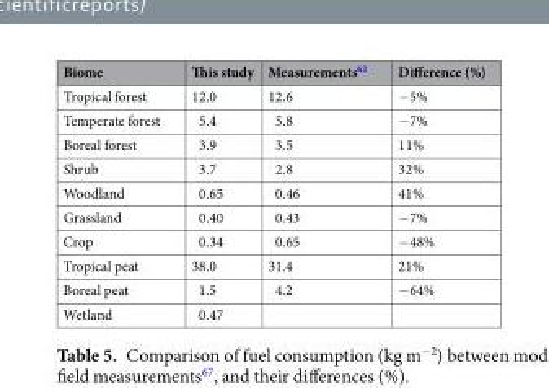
<table><thead><tr><td>Biome</td><td>This study</td><td>Measurements<sup>62</sup></td><td>Difference (%)</td></tr></thead><tbody><tr><td>Tropical forest</td><td>12.0</td><td>12.6</td><td>−5%</td></tr><tr><td>Temperate forest</td><td>5.4</td><td>5.8</td><td>−7%</td></tr><tr><td>Boreal forest</td><td>3.9</td><td>3.5</td><td>11%</td></tr><tr><td>Shrub</td><td>3.7</td><td>2.8</td><td>32%</td></tr><tr><td>Woodland</td><td>0.65</td><td>0.46</td><td>41%</td></tr><tr><td>Grassland</td><td>0.40</td><td>0.43</td><td>−7%</td></tr><tr><td>Crop</td><td>0.34</td><td>0.65</td><td>−48%</td></tr><tr><td>Tropical peat</td><td>38.0</td><td>31.4</td><td>21%</td></tr><tr><td>Boreal peat</td><td>1.5</td><td>4.2</td><td>−64%</td></tr><tr><td>Wetland</td><td>0.47</td><td></td><td></td></tr></tbody></table>